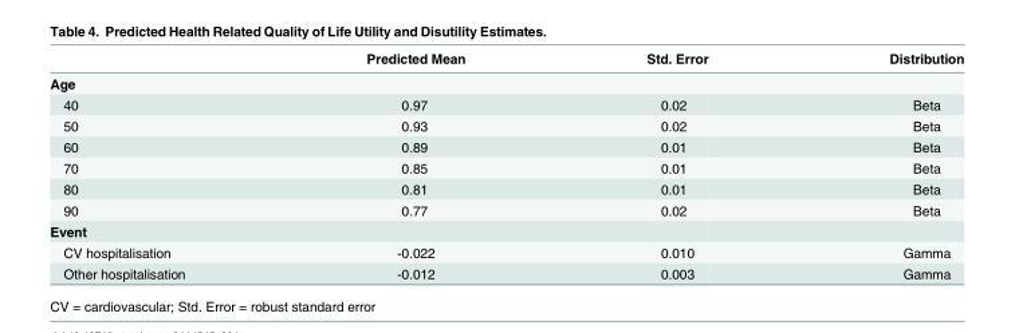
<table><thead><tr><td></td><td>Predicted Mean</td><td>Std. Error</td><td>Distribution</td></tr></thead><tbody><tr><td colspan="4">Age</td></tr><tr><td>40</td><td>0.97</td><td>0.02</td><td>Beta</td></tr><tr><td>50</td><td>0.93</td><td>0.02</td><td>Beta</td></tr><tr><td>60</td><td>0.89</td><td>0.01</td><td>Beta</td></tr><tr><td>70</td><td>0.85</td><td>0.01</td><td>Beta</td></tr><tr><td>80</td><td>0.81</td><td>0.01</td><td>Beta</td></tr><tr><td>90</td><td>0.77</td><td>0.02</td><td>Beta</td></tr><tr><td colspan="4">Event</td></tr><tr><td>CV hospitalisation</td><td>-0.022</td><td>0.010</td><td>Gamma</td></tr><tr><td>Other hospitalisation</td><td>-0.012</td><td>0.003</td><td>Gamma</td></tr></tbody></table>